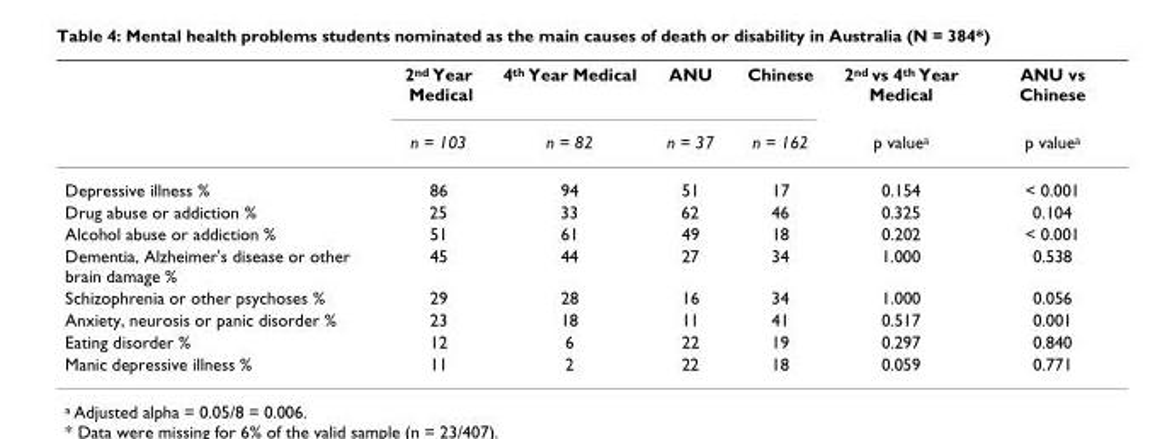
<table><thead><tr><td rowspan="2"></td><td rowspan="2">2<sup>nd</sup> Year Medical n = 103</td><td rowspan="2">4<sup>th</sup> Year Medical n = 82</td><td rowspan="2">ANU n = 37</td><td rowspan="2">Chinese n = 162</td><td rowspan="2">2<sup>nd</sup> vs 4<sup>th</sup> Year Medical p value<sup>a</sup></td><td rowspan="2">ANU vs Chinese p value<sup>a</sup></td></tr><tr></tr></thead><tbody><tr><td>Depressive illness %</td><td>86</td><td>94</td><td>51</td><td>17</td><td>0.154</td><td>&lt; 0.001</td></tr><tr><td>Drug abuse or addiction %</td><td>25</td><td>33</td><td>62</td><td>46</td><td>0.325</td><td>0.104</td></tr><tr><td>Alcohol abuse or addiction %</td><td>51</td><td>61</td><td>49</td><td>18</td><td>0.202</td><td>&lt; 0.001</td></tr><tr><td>Dementia, Alzheimer&#x27;s disease or other brain damage %</td><td>45</td><td>44</td><td>27</td><td>34</td><td>1.000</td><td>0.538</td></tr><tr><td>Schizophrenia or other psychoses %</td><td>29</td><td>28</td><td>16</td><td>34</td><td>1.000</td><td>0.056</td></tr><tr><td>Anxiety, neurosis or panic disorder %</td><td>23</td><td>18</td><td>11</td><td>41</td><td>0.517</td><td>0.001</td></tr><tr><td>Eating disorder %</td><td>12</td><td>6</td><td>22</td><td>19</td><td>0.297</td><td>0.840</td></tr><tr><td>Manic depressive illness %</td><td>11</td><td>2</td><td>22</td><td>18</td><td>0.059</td><td>0.771</td></tr></tbody></table>